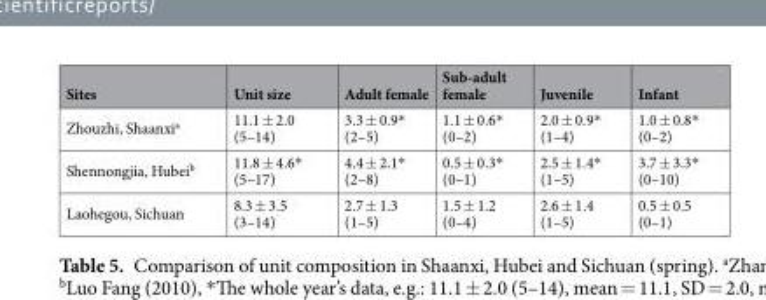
<table><thead><tr><td>Sites</td><td>Unit size</td><td>Adult female</td><td>Sub-adult female</td><td>Juvenile</td><td>Infant</td></tr></thead><tbody><tr><td>Zhouzhi, Shaanxi<sup>a</sup></td><td>11.1 ± 2.0 (5–14)</td><td>3.3 ± 0.9* (2–5)</td><td>1.1 ± 0.6* (0–2)</td><td>2.0 ± 0.9* (1–4)</td><td>1.0 ± 0.8* (0–2)</td></tr><tr><td>Shennongjia, Hubei<sup>b</sup></td><td>11.8 ± 4.6* (5–17)</td><td>4.4 ± 2.1* (2–8)</td><td>0.5 ± 0.3* (0–1)</td><td>2.5 ± 1.4* (1–5)</td><td>3.7 ± 3.3* (0–10)</td></tr><tr><td>Laohegou, Sichuan</td><td>8.3 ± 3.5 (3–14)</td><td>2.7 ± 1.3 (1–5)</td><td>1.5 ± 1.2 (0–4)</td><td>2.6 ± 1.4 (1–5)</td><td>0.5 ± 0.5 (0–1)</td></tr></tbody></table>